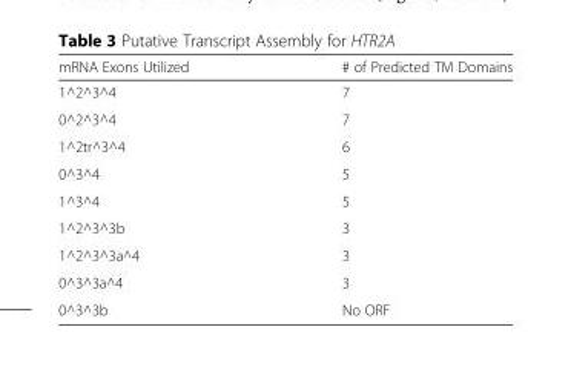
<table><thead><tr><td>mRNA Exons Utilized</td><td># of Predicted TM Domains</td></tr></thead><tbody><tr><td>1^2^3^4</td><td>7</td></tr><tr><td>0^2^3^4</td><td>7</td></tr><tr><td>1^2tr^3^4</td><td>6</td></tr><tr><td>0^3^4</td><td>5</td></tr><tr><td>1^3^4</td><td>5</td></tr><tr><td>1^2^3^3b</td><td>3</td></tr><tr><td>1^2^3^3a^4</td><td>3</td></tr><tr><td>0^3^3a^4</td><td>3</td></tr><tr><td>0^3^3b</td><td>No ORF</td></tr></tbody></table>